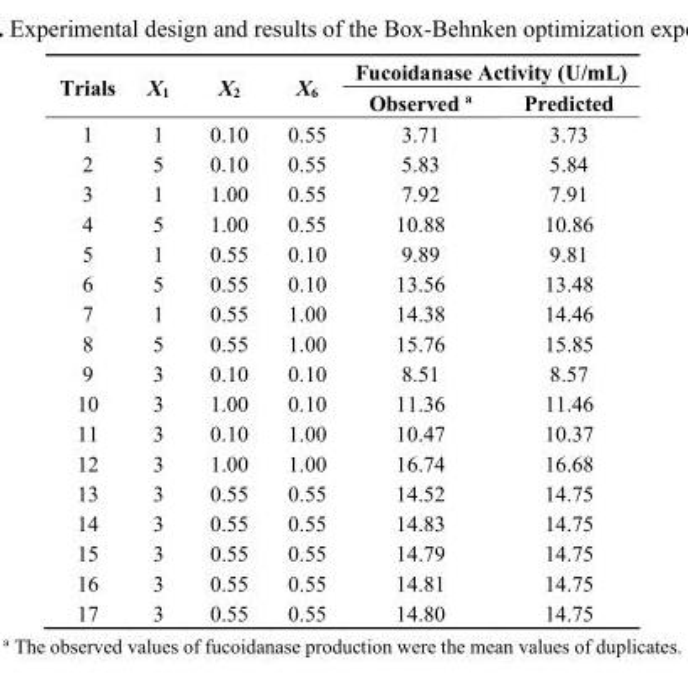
<table><thead><tr><td rowspan="2">Trials</td><td rowspan="2">X<sub>1</sub></td><td rowspan="2">X<sub>2</sub></td><td rowspan="2">X<sub>6</sub></td><td colspan="2">Fucoidanase Activity (U/mL)</td></tr><tr><td>Observed <sup>a</sup></td><td>Predicted</td></tr></thead><tbody><tr><td>1</td><td>1</td><td>0.10</td><td>0.55</td><td>3.71</td><td>3.73</td></tr><tr><td>2</td><td>5</td><td>0.10</td><td>0.55</td><td>5.83</td><td>5.84</td></tr><tr><td>3</td><td>1</td><td>1.00</td><td>0.55</td><td>7.92</td><td>7.91</td></tr><tr><td>4</td><td>5</td><td>1.00</td><td>0.55</td><td>10.88</td><td>10.86</td></tr><tr><td>5</td><td>1</td><td>0.55</td><td>0.10</td><td>9.89</td><td>9.81</td></tr><tr><td>6</td><td>5</td><td>0.55</td><td>0.10</td><td>13.56</td><td>13.48</td></tr><tr><td>7</td><td>1</td><td>0.55</td><td>1.00</td><td>14.38</td><td>14.46</td></tr><tr><td>8</td><td>5</td><td>0.55</td><td>1.00</td><td>15.76</td><td>15.85</td></tr><tr><td>9</td><td>3</td><td>0.10</td><td>0.10</td><td>8.51</td><td>8.57</td></tr><tr><td>10</td><td>3</td><td>1.00</td><td>0.10</td><td>11.36</td><td>11.46</td></tr><tr><td>11</td><td>3</td><td>0.10</td><td>1.00</td><td>10.47</td><td>10.37</td></tr><tr><td>12</td><td>3</td><td>1.00</td><td>1.00</td><td>16.74</td><td>16.68</td></tr><tr><td>13</td><td>3</td><td>0.55</td><td>0.55</td><td>14.52</td><td>14.75</td></tr><tr><td>14</td><td>3</td><td>0.55</td><td>0.55</td><td>14.83</td><td>14.75</td></tr><tr><td>15</td><td>3</td><td>0.55</td><td>0.55</td><td>14.79</td><td>14.75</td></tr><tr><td>16</td><td>3</td><td>0.55</td><td>0.55</td><td>14.81</td><td>14.75</td></tr><tr><td>17</td><td>3</td><td>0.55</td><td>0.55</td><td>14.80</td><td>14.75</td></tr></tbody></table>